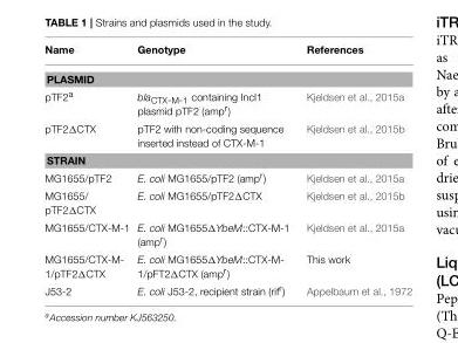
<table><thead><tr><td>Name</td><td>Genotype</td><td>References</td></tr></thead><tbody><tr><td colspan="3">PLASMID</td></tr><tr><td>pTF2<sup>a</sup></td><td>bla<sub>CTX-M-1</sub> containing IncI1 plasmid pTF2 (amp<sup>r</sup>)</td><td>Kjeldsen et al., 2015a</td></tr><tr><td>pTF2ΔCTX</td><td>pTF2 with non-coding sequence inserted instead of CTX-M-1</td><td>Kjeldsen et al., 2015b</td></tr><tr><td colspan="3">STRAIN</td></tr><tr><td>MG1655/pTF2</td><td>E. coli MG1655/pTF2 (amp<sup>r</sup>)</td><td>Kjeldsen et al., 2015a</td></tr><tr><td>MG1655/ pTF2ΔCTX</td><td>E. coli MG1655/pTF2ΔCTX</td><td>Kjeldsen et al., 2015b</td></tr><tr><td>MG1655/CTX-M-1</td><td>E. coli MG1655ΔYbeM::CTX-M-1 (amp<sup>r</sup>)</td><td>Kjeldsen et al., 2015a</td></tr><tr><td>MG1655/CTX-M- 1/pTF2ΔCTX</td><td>E. coli MG1655ΔYbeM::CTX-M- 1/pFT2ΔCTX (amp<sup>r</sup>)</td><td>This work</td></tr><tr><td>J53-2</td><td>E. coli J53-2, recipient strain (rif<sup>r</sup>)</td><td>Appelbaum et al., 1972</td></tr></tbody></table>